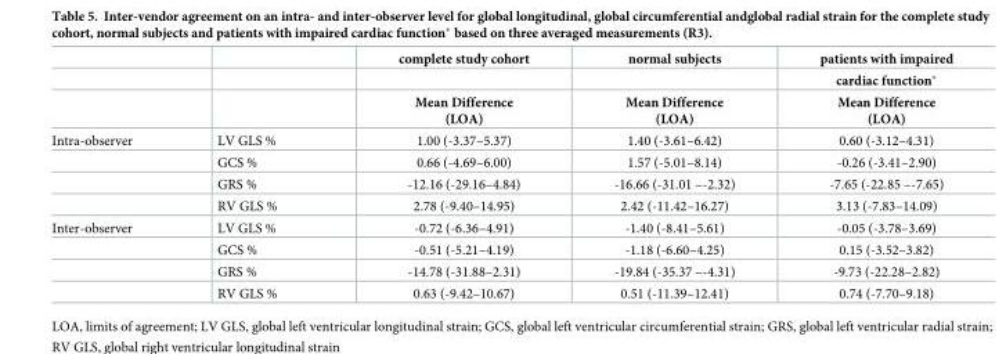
<table><thead><tr><td rowspan="3"></td><td rowspan="3"></td><td rowspan="3">complete study cohort Mean Difference (LOA)</td><td rowspan="3">normal subjects Mean Difference (LOA)</td><td rowspan="3">patients with impaired cardiac function* Mean Difference (LOA)</td></tr><tr></tr><tr></tr></thead><tbody><tr><td rowspan="4">Intra-observer</td><td>LV GLS %</td><td>1.00 (-3.37–5.37)</td><td>1.40 (-3.61–6.42)</td><td>0.60 (-3.12–4.31)</td></tr><tr><td>GCS %</td><td>0.66 (-4.69–6.00)</td><td>1.57 (-5.01–8.14)</td><td>-0.26 (-3.41–2.90)</td></tr><tr><td>GRS %</td><td>-12.16 (-29.16–4.84)</td><td>-16.66 (-31.01 –-2.32)</td><td>-7.65 (-22.85 –-7.65)</td></tr><tr><td>RV GLS %</td><td>2.78 (-9.40–14.95)</td><td>2.42 (-11.42–16.27)</td><td>3.13 (-7.83–14.09)</td></tr><tr><td rowspan="4">Inter-observer</td><td>LV GLS %</td><td>-0.72 (-6.36–4.91)</td><td>-1.40 (-8.41–5.61)</td><td>-0.05 (-3.78–3.69)</td></tr><tr><td>GCS %</td><td>-0.51 (-5.21–4.19)</td><td>-1.18 (-6.60–4.25)</td><td>0.15 (-3.52–3.82)</td></tr><tr><td>GRS %</td><td>-14.78 (-31.88–2.31)</td><td>-19.84 (-35.37 –-4.31)</td><td>-9.73 (-22.28–2.82)</td></tr><tr><td>RV GLS %</td><td>0.63 (-9.42–10.67)</td><td>0.51 (-11.39–12.41)</td><td>0.74 (-7.70–9.18)</td></tr></tbody></table>